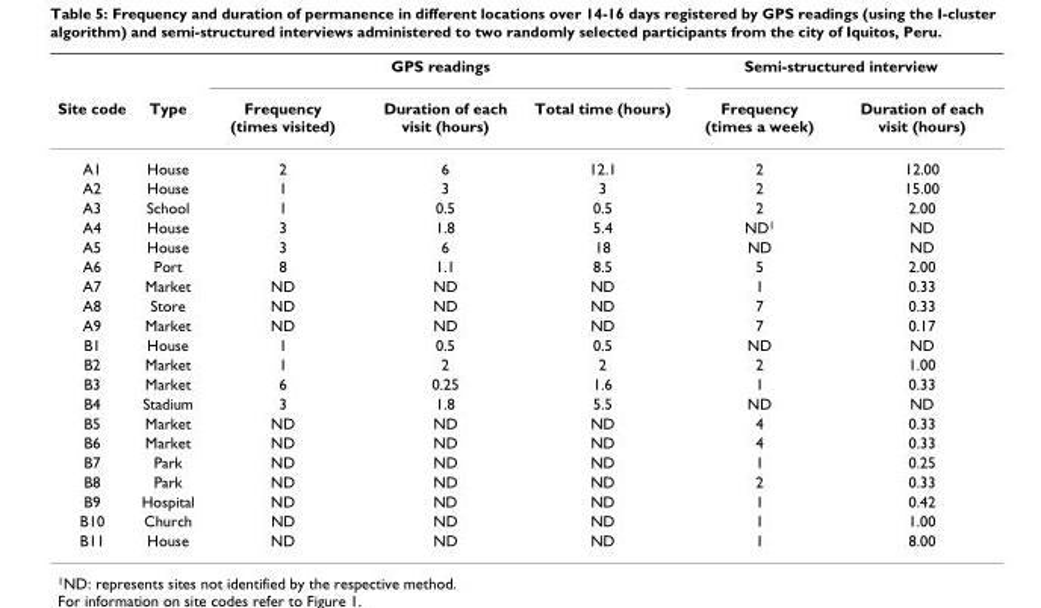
<table><thead><tr><td rowspan="2">Site code</td><td rowspan="2">Type</td><td colspan="3">GPS readings</td><td colspan="2">Semi-structured interview</td></tr><tr><td>Frequency (times visited)</td><td>Duration of each visit (hours)</td><td>Total time (hours)</td><td>Frequency (times a week)</td><td>Duration of each visit (hours)</td></tr></thead><tbody><tr><td>A1</td><td>House</td><td>2</td><td>6</td><td>12.1</td><td>2</td><td>12.00</td></tr><tr><td>A2</td><td>House</td><td>1</td><td>3</td><td>3</td><td>2</td><td>15.00</td></tr><tr><td>A3</td><td>School</td><td>1</td><td>0.5</td><td>0.5</td><td>2</td><td>2.00</td></tr><tr><td>A4</td><td>House</td><td>3</td><td>1.8</td><td>5.4</td><td>ND<sup>1</sup></td><td>ND</td></tr><tr><td>A5</td><td>House</td><td>3</td><td>6</td><td>18</td><td>ND</td><td>ND</td></tr><tr><td>A6</td><td>Port</td><td>8</td><td>1.1</td><td>8.5</td><td>5</td><td>2.00</td></tr><tr><td>A7</td><td>Market</td><td>ND</td><td>ND</td><td>ND</td><td>1</td><td>0.33</td></tr><tr><td>A8</td><td>Store</td><td>ND</td><td>ND</td><td>ND</td><td>7</td><td>0.33</td></tr><tr><td>A9</td><td>Market</td><td>ND</td><td>ND</td><td>ND</td><td>7</td><td>0.17</td></tr><tr><td>B1</td><td>House</td><td>1</td><td>0.5</td><td>0.5</td><td>ND</td><td>ND</td></tr><tr><td>B2</td><td>Market</td><td>1</td><td>2</td><td>2</td><td>2</td><td>1.00</td></tr><tr><td>B3</td><td>Market</td><td>6</td><td>0.25</td><td>1.6</td><td>1</td><td>0.33</td></tr><tr><td>B4</td><td>Stadium</td><td>3</td><td>1.8</td><td>5.5</td><td>ND</td><td>ND</td></tr><tr><td>B5</td><td>Market</td><td>ND</td><td>ND</td><td>ND</td><td>4</td><td>0.33</td></tr><tr><td>B6</td><td>Market</td><td>ND</td><td>ND</td><td>ND</td><td>4</td><td>0.33</td></tr><tr><td>B7</td><td>Park</td><td>ND</td><td>ND</td><td>ND</td><td>1</td><td>0.25</td></tr><tr><td>B8</td><td>Park</td><td>ND</td><td>ND</td><td>ND</td><td>2</td><td>0.33</td></tr><tr><td>B9</td><td>Hospital</td><td>ND</td><td>ND</td><td>ND</td><td>1</td><td>0.42</td></tr><tr><td>B10</td><td>Church</td><td>ND</td><td>ND</td><td>ND</td><td>1</td><td>1.00</td></tr><tr><td>B11</td><td>House</td><td>ND</td><td>ND</td><td>ND</td><td>1</td><td>8.00</td></tr></tbody></table>